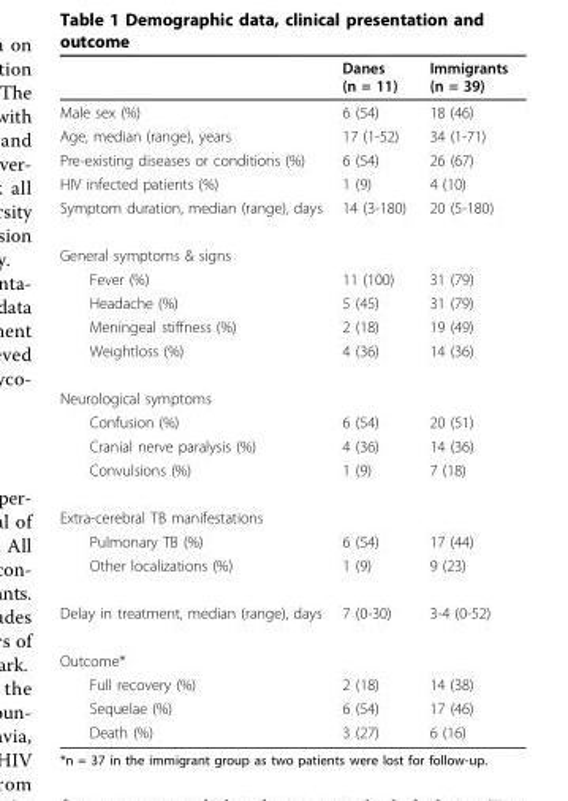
<table><thead><tr><td></td><td>Danes (n = 11)</td><td>Immigrants (n = 39)</td></tr></thead><tbody><tr><td>Male sex (%)</td><td>6 (54)</td><td>18 (46)</td></tr><tr><td>Age, median (range), years</td><td>17 (1-52)</td><td>34 (1-71)</td></tr><tr><td>Pre-existing diseases or conditions (%)</td><td>6 (54)</td><td>26 (67)</td></tr><tr><td>HIV infected patients (%)</td><td>1 (9)</td><td>4 (10)</td></tr><tr><td>Symptom duration, median (range), days</td><td>14 (3-180)</td><td>20 (5-180)</td></tr><tr><td colspan="3">General symptoms &amp; signs</td></tr><tr><td>Fever (%)</td><td>11 (100)</td><td>31 (79)</td></tr><tr><td>Headache (%)</td><td>5 (45)</td><td>31 (79)</td></tr><tr><td>Meningeal stiffness (%)</td><td>2 (18)</td><td>19 (49)</td></tr><tr><td>Weightloss (%)</td><td>4 (36)</td><td>14 (36)</td></tr><tr><td colspan="3">Neurological symptoms</td></tr><tr><td>Confusion (%)</td><td>6 (54)</td><td>20 (51)</td></tr><tr><td>Cranial nerve paralysis (%)</td><td>4 (36)</td><td>14 (36)</td></tr><tr><td>Convulsions (%)</td><td>1 (9)</td><td>7 (18)</td></tr><tr><td colspan="3">Extra-cerebral TB manifestations</td></tr><tr><td>Pulmonary TB (%)</td><td>6 (54)</td><td>17 (44)</td></tr><tr><td>Other localizations (%)</td><td>1 (9)</td><td>9 (23)</td></tr><tr><td>Delay in treatment, median (range), days</td><td>7 (0-30)</td><td>3-4 (0-52)</td></tr><tr><td colspan="3">Outcome*</td></tr><tr><td>Full recovery (%)</td><td>2 (18)</td><td>14 (38)</td></tr><tr><td>Sequelae (%)</td><td>6 (54)</td><td>17 (46)</td></tr><tr><td>Death (%)</td><td>3 (27)</td><td>6 (16)</td></tr></tbody></table>